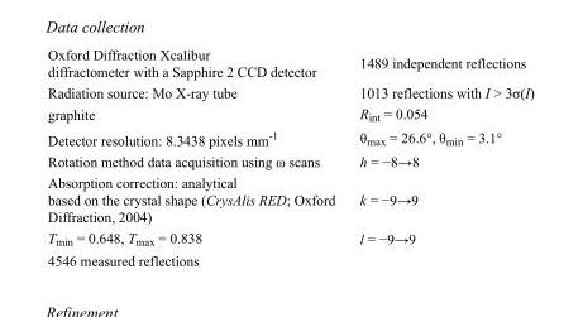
<table><tbody><tr><td>Oxford Diffraction Xcalibur diffractometer with a Sapphire 2 CCD detector</td><td>1489 independent reflections</td></tr><tr><td>Radiation source: Mo X-ray tube</td><td>1013 reflections with I &gt; 3σ(I)</td></tr><tr><td>graphite</td><td>R<sub>int</sub> = 0.054</td></tr><tr><td>Detector resolution: 8.3438 pixels mm<sup>-1</sup></td><td>θ<sub>max</sub> = 26.6°, θ<sub>min</sub> = 3.1°</td></tr><tr><td>Rotation method data acquisition using ω scans</td><td>h = −8→8</td></tr><tr><td>Absorption correction: analytical based on the crystal shape (CrysAlis RED; Oxford Diffraction, 2004)</td><td>k = −9→9</td></tr><tr><td>T<sub>min</sub> = 0.648, T<sub>max</sub> = 0.838</td><td>l = −9→9</td></tr><tr><td>4546 measured reflections</td><td></td></tr></tbody></table>